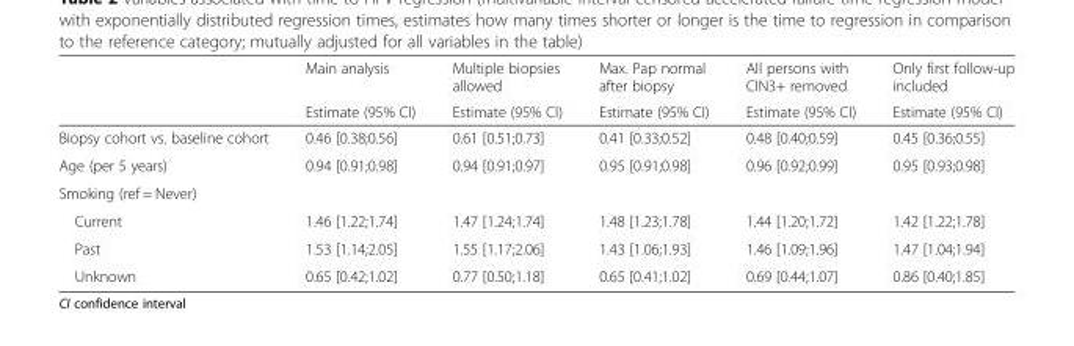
<table><thead><tr><td rowspan="2"></td><td rowspan="2">Main analysis Estimate (95% CI)</td><td rowspan="2">Multiple biopsies allowed Estimate (95% CI)</td><td rowspan="2">Max. Pap normal after biopsy Estimate (95% CI)</td><td rowspan="2">All persons with CIN3+ removed Estimate (95% CI)</td><td rowspan="2">Only first follow-up included Estimate (95% CI)</td></tr><tr></tr></thead><tbody><tr><td>Biopsy cohort vs. baseline cohort</td><td>0.46 [0.38;0.56]</td><td>0.61 [0.51;0.73]</td><td>0.41 [0.33;0.52]</td><td>0.48 [0.40;0.59]</td><td>0.45 [0.36;0.55]</td></tr><tr><td>Age (per 5 years)</td><td>0.94 [0.91;0.98]</td><td>0.94 [0.91;0.97]</td><td>0.95 [0.91;0.98]</td><td>0.96 [0.92;0.99]</td><td>0.95 [0.93;0.98]</td></tr><tr><td colspan="6">Smoking (ref = Never)</td></tr><tr><td>Current</td><td>1.46 [1.22;1.74]</td><td>1.47 [1.24;1.74]</td><td>1.48 [1.23;1.78]</td><td>1.44 [1.20;1.72]</td><td>1.42 [1.22;1.78]</td></tr><tr><td>Past</td><td>1.53 [1.14;2.05]</td><td>1.55 [1.17;2.06]</td><td>1.43 [1.06;1.93]</td><td>1.46 [1.09;1.96]</td><td>1.47 [1.04;1.94]</td></tr><tr><td>Unknown</td><td>0.65 [0.42;1.02]</td><td>0.77 [0.50;1.18]</td><td>0.65 [0.41;1.02]</td><td>0.69 [0.44;1.07]</td><td>0.86 [0.40;1.85]</td></tr></tbody></table>